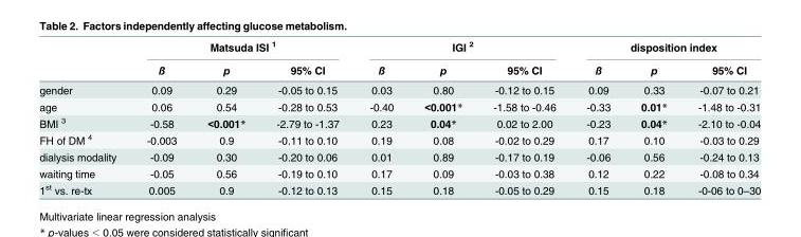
<table><thead><tr><td rowspan="2"></td><td colspan="3">Matsuda ISI <sup>1</sup></td><td colspan="3">IGI <sup>2</sup></td><td colspan="3">disposition index</td></tr><tr><td>ß</td><td>p</td><td>95% CI</td><td>ß</td><td>p</td><td>95% CI</td><td>ß</td><td>p</td><td>95% CI</td></tr></thead><tbody><tr><td>gender</td><td>0.09</td><td>0.29</td><td>-0.05 to 0.15</td><td>0.03</td><td>0.80</td><td>-0.12 to 0.15</td><td>0.09</td><td>0.33</td><td>-0.07 to 0.21</td></tr><tr><td>age</td><td>0.06</td><td>0.54</td><td>-0.28 to 0.53</td><td>-0.40</td><td>&lt;0.001*</td><td>-1.58 to -0.46</td><td>-0.33</td><td>0.01*</td><td>-1.48 to -0.31</td></tr><tr><td>BMI <sup>3</sup></td><td>-0.58</td><td>&lt;0.001*</td><td>-2.79 to -1.37</td><td>0.23</td><td>0.04*</td><td>0.02 to 2.00</td><td>-0.23</td><td>0.04*</td><td>-2.10 to -0.04</td></tr><tr><td>FH of DM <sup>4</sup></td><td>-0.003</td><td>0.9</td><td>-0.11 to 0.10</td><td>0.19</td><td>0.08</td><td>-0.02 to 0.29</td><td>0.17</td><td>0.10</td><td>-0.03 to 0.29</td></tr><tr><td>dialysis modality</td><td>-0.09</td><td>0.30</td><td>-0.20 to 0.06</td><td>0.01</td><td>0.89</td><td>-0.17 to 0.19</td><td>-0.06</td><td>0.56</td><td>-0.24 to 0.13</td></tr><tr><td>waiting time</td><td>-0.05</td><td>0.56</td><td>-0.19 to 0.10</td><td>0.17</td><td>0.09</td><td>-0.03 to 0.38</td><td>0.12</td><td>0.22</td><td>-0.08 to 0.34</td></tr><tr><td>1<sup>st</sup> vs. re-tx</td><td>0.005</td><td>0.9</td><td>-0.12 to 0.13</td><td>0.15</td><td>0.18</td><td>-0.05 to 0.29</td><td>0.15</td><td>0.18</td><td>-0-06 to 0–30</td></tr></tbody></table>